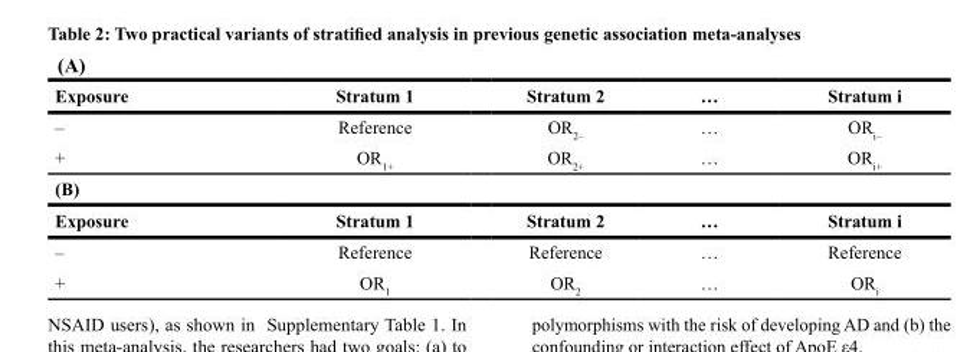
<table><thead><tr><td rowspan="2">(A) Exposure</td><td rowspan="2">Stratum 1</td><td rowspan="2">Stratum 2</td><td rowspan="2">…</td><td rowspan="2">Stratum i</td></tr><tr></tr></thead><tbody><tr><td>–</td><td>Reference</td><td>OR<sub>2–</sub></td><td>…</td><td>OR<sub>i–</sub></td></tr><tr><td>+</td><td>OR<sub>1+</sub></td><td>OR<sub>2+</sub></td><td>…</td><td>OR<sub>i+</sub></td></tr><tr><td colspan="5">(B)</td></tr><tr><td>Exposure</td><td>Stratum 1</td><td>Stratum 2</td><td>…</td><td>Stratum i</td></tr><tr><td>–</td><td>Reference</td><td>Reference</td><td>…</td><td>Reference</td></tr><tr><td>+</td><td>OR<sub>1</sub></td><td>OR<sub>2</sub></td><td>…</td><td>OR<sub>i</sub></td></tr></tbody></table>